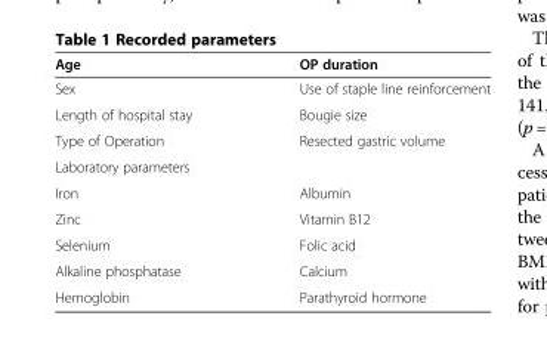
<table><thead><tr><td>Age</td><td>OP duration</td></tr></thead><tbody><tr><td>Sex</td><td>Use of staple line reinforcement</td></tr><tr><td>Length of hospital stay</td><td>Bougie size</td></tr><tr><td>Type of Operation</td><td>Resected gastric volume</td></tr><tr><td colspan="2">Laboratory parameters</td></tr><tr><td>Iron</td><td>Albumin</td></tr><tr><td>Zinc</td><td>Vitamin B12</td></tr><tr><td>Selenium</td><td>Folic acid</td></tr><tr><td>Alkaline phosphatase</td><td>Calcium</td></tr><tr><td>Hemoglobin</td><td>Parathyroid hormone</td></tr></tbody></table>